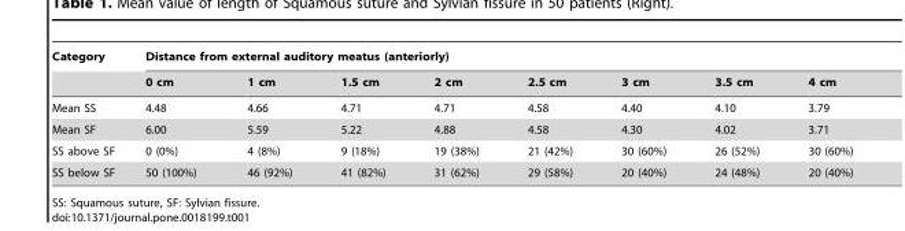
<table><thead><tr><td rowspan="2">Category</td><td colspan="8">Distance from external auditory meatus (anteriorly)</td></tr><tr><td>0 cm</td><td>1 cm</td><td>1.5 cm</td><td>2 cm</td><td>2.5 cm</td><td>3 cm</td><td>3.5 cm</td><td>4 cm</td></tr></thead><tbody><tr><td>Mean SS</td><td>4.48</td><td>4.66</td><td>4.71</td><td>4.71</td><td>4.58</td><td>4.40</td><td>4.10</td><td>3.79</td></tr><tr><td>Mean SF</td><td>6.00</td><td>5.59</td><td>5.22</td><td>4.88</td><td>4.58</td><td>4.30</td><td>4.02</td><td>3.71</td></tr><tr><td>SS above SF</td><td>0 (0%)</td><td>4 (8%)</td><td>9 (18%)</td><td>19 (38%)</td><td>21 (42%)</td><td>30 (60%)</td><td>26 (52%)</td><td>30 (60%)</td></tr><tr><td>SS below SF</td><td>50 (100%)</td><td>46 (92%)</td><td>41 (82%)</td><td>31 (62%)</td><td>29 (58%)</td><td>20 (40%)</td><td>24 (48%)</td><td>20 (40%)</td></tr></tbody></table>